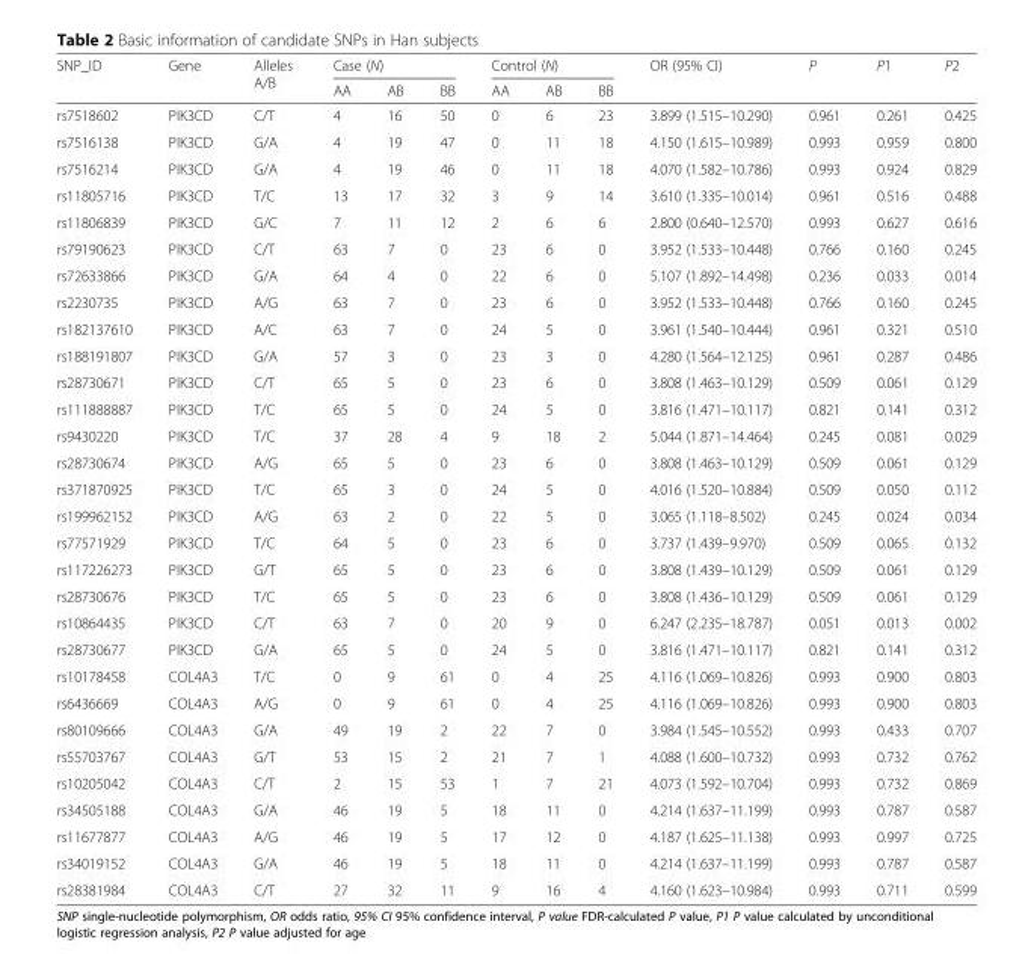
<table><thead><tr><td rowspan="2">SNP_ID</td><td rowspan="2">Gene</td><td rowspan="2">Alleles A/B</td><td colspan="3">Case (N)</td><td colspan="3">Control (N)</td><td rowspan="2">OR (95% CI)</td><td rowspan="2">P</td><td rowspan="2">P1</td><td rowspan="2">P2</td></tr><tr><td>AA</td><td>AB</td><td>BB</td><td>AA</td><td>AB</td><td>BB</td></tr></thead><tbody><tr><td>rs7518602</td><td>PIK3CD</td><td>C/T</td><td>4</td><td>16</td><td>50</td><td>0</td><td>6</td><td>23</td><td>3.899 (1.515–10.290)</td><td>0.961</td><td>0.261</td><td>0.425</td></tr><tr><td>rs7516138</td><td>PIK3CD</td><td>G/A</td><td>4</td><td>19</td><td>47</td><td>0</td><td>11</td><td>18</td><td>4.150 (1.615–10.989)</td><td>0.993</td><td>0.959</td><td>0.800</td></tr><tr><td>rs7516214</td><td>PIK3CD</td><td>G/A</td><td>4</td><td>19</td><td>46</td><td>0</td><td>11</td><td>18</td><td>4.070 (1.582–10.786)</td><td>0.993</td><td>0.924</td><td>0.829</td></tr><tr><td>rs11805716</td><td>PIK3CD</td><td>T/C</td><td>13</td><td>17</td><td>32</td><td>3</td><td>9</td><td>14</td><td>3.610 (1.335–10.014)</td><td>0.961</td><td>0.516</td><td>0.488</td></tr><tr><td>rs11806839</td><td>PIK3CD</td><td>G/C</td><td>7</td><td>11</td><td>12</td><td>2</td><td>6</td><td>6</td><td>2.800 (0.640–12.570)</td><td>0.993</td><td>0.627</td><td>0.616</td></tr><tr><td>rs79190623</td><td>PIK3CD</td><td>C/T</td><td>63</td><td>7</td><td>0</td><td>23</td><td>6</td><td>0</td><td>3.952 (1.533–10.448)</td><td>0.766</td><td>0.160</td><td>0.245</td></tr><tr><td>rs72633866</td><td>PIK3CD</td><td>G/A</td><td>64</td><td>4</td><td>0</td><td>22</td><td>6</td><td>0</td><td>5.107 (1.892–14.498)</td><td>0.236</td><td>0.033</td><td>0.014</td></tr><tr><td>rs2230735</td><td>PIK3CD</td><td>A/G</td><td>63</td><td>7</td><td>0</td><td>23</td><td>6</td><td>0</td><td>3.952 (1.533–10.448)</td><td>0.766</td><td>0.160</td><td>0.245</td></tr><tr><td>rs182137610</td><td>PIK3CD</td><td>A/C</td><td>63</td><td>7</td><td>0</td><td>24</td><td>5</td><td>0</td><td>3.961 (1.540–10.444)</td><td>0.961</td><td>0.321</td><td>0.510</td></tr><tr><td>rs188191807</td><td>PIK3CD</td><td>G/A</td><td>57</td><td>3</td><td>0</td><td>23</td><td>3</td><td>0</td><td>4.280 (1.564–12.125)</td><td>0.961</td><td>0.287</td><td>0.486</td></tr><tr><td>rs28730671</td><td>PIK3CD</td><td>C/T</td><td>65</td><td>5</td><td>0</td><td>23</td><td>6</td><td>0</td><td>3.808 (1.463–10.129)</td><td>0.509</td><td>0.061</td><td>0.129</td></tr><tr><td>rs111888887</td><td>PIK3CD</td><td>T/C</td><td>65</td><td>5</td><td>0</td><td>24</td><td>5</td><td>0</td><td>3.816 (1.471–10.117)</td><td>0.821</td><td>0.141</td><td>0.312</td></tr><tr><td>rs9430220</td><td>PIK3CD</td><td>T/C</td><td>37</td><td>28</td><td>4</td><td>9</td><td>18</td><td>2</td><td>5.044 (1.871–14.464)</td><td>0.245</td><td>0.081</td><td>0.029</td></tr><tr><td>rs28730674</td><td>PIK3CD</td><td>A/G</td><td>65</td><td>5</td><td>0</td><td>23</td><td>6</td><td>0</td><td>3.808 (1.463–10.129)</td><td>0.509</td><td>0.061</td><td>0.129</td></tr><tr><td>rs371870925</td><td>PIK3CD</td><td>T/C</td><td>65</td><td>3</td><td>0</td><td>24</td><td>5</td><td>0</td><td>4.016 (1.520–10.884)</td><td>0.509</td><td>0.050</td><td>0.112</td></tr><tr><td>rs199962152</td><td>PIK3CD</td><td>A/G</td><td>63</td><td>2</td><td>0</td><td>22</td><td>5</td><td>0</td><td>3.065 (1.118–8.502)</td><td>0.245</td><td>0.024</td><td>0.034</td></tr><tr><td>rs77571929</td><td>PIK3CD</td><td>T/C</td><td>64</td><td>5</td><td>0</td><td>23</td><td>6</td><td>0</td><td>3.737 (1.439–9.970)</td><td>0.509</td><td>0.065</td><td>0.132</td></tr><tr><td>rs117226273</td><td>PIK3CD</td><td>G/T</td><td>65</td><td>5</td><td>0</td><td>23</td><td>6</td><td>0</td><td>3.808 (1.439–10.129)</td><td>0.509</td><td>0.061</td><td>0.129</td></tr><tr><td>rs28730676</td><td>PIK3CD</td><td>T/C</td><td>65</td><td>5</td><td>0</td><td>23</td><td>6</td><td>0</td><td>3.808 (1.436–10.129)</td><td>0.509</td><td>0.061</td><td>0.129</td></tr><tr><td>rs10864435</td><td>PIK3CD</td><td>C/T</td><td>63</td><td>7</td><td>0</td><td>20</td><td>9</td><td>0</td><td>6.247 (2.235–18.787)</td><td>0.051</td><td>0.013</td><td>0.002</td></tr><tr><td>rs28730677</td><td>PIK3CD</td><td>G/A</td><td>65</td><td>5</td><td>0</td><td>24</td><td>5</td><td>0</td><td>3.816 (1.471–10.117)</td><td>0.821</td><td>0.141</td><td>0.312</td></tr><tr><td>rs10178458</td><td>COL4A3</td><td>T/C</td><td>0</td><td>9</td><td>61</td><td>0</td><td>4</td><td>25</td><td>4.116 (1.069–10.826)</td><td>0.993</td><td>0.900</td><td>0.803</td></tr><tr><td>rs6436669</td><td>COL4A3</td><td>A/G</td><td>0</td><td>9</td><td>61</td><td>0</td><td>4</td><td>25</td><td>4.116 (1.069–10.826)</td><td>0.993</td><td>0.900</td><td>0.803</td></tr><tr><td>rs80109666</td><td>COL4A3</td><td>G/A</td><td>49</td><td>19</td><td>2</td><td>22</td><td>7</td><td>0</td><td>3.984 (1.545–10.552)</td><td>0.993</td><td>0.433</td><td>0.707</td></tr><tr><td>rs55703767</td><td>COL4A3</td><td>G/T</td><td>53</td><td>15</td><td>2</td><td>21</td><td>7</td><td>1</td><td>4.088 (1.600–10.732)</td><td>0.993</td><td>0.732</td><td>0.762</td></tr><tr><td>rs10205042</td><td>COL4A3</td><td>C/T</td><td>2</td><td>15</td><td>53</td><td>1</td><td>7</td><td>21</td><td>4.073 (1.592–10.704)</td><td>0.993</td><td>0.732</td><td>0.869</td></tr><tr><td>rs34505188</td><td>COL4A3</td><td>G/A</td><td>46</td><td>19</td><td>5</td><td>18</td><td>11</td><td>0</td><td>4.214 (1.637–11.199)</td><td>0.993</td><td>0.787</td><td>0.587</td></tr><tr><td>rs11677877</td><td>COL4A3</td><td>A/G</td><td>46</td><td>19</td><td>5</td><td>17</td><td>12</td><td>0</td><td>4.187 (1.625–11.138)</td><td>0.993</td><td>0.997</td><td>0.725</td></tr><tr><td>rs34019152</td><td>COL4A3</td><td>G/A</td><td>46</td><td>19</td><td>5</td><td>18</td><td>11</td><td>0</td><td>4.214 (1.637–11.199)</td><td>0.993</td><td>0.787</td><td>0.587</td></tr><tr><td>rs28381984</td><td>COL4A3</td><td>C/T</td><td>27</td><td>32</td><td>11</td><td>9</td><td>16</td><td>4</td><td>4.160 (1.623–10.984)</td><td>0.993</td><td>0.711</td><td>0.599</td></tr></tbody></table>